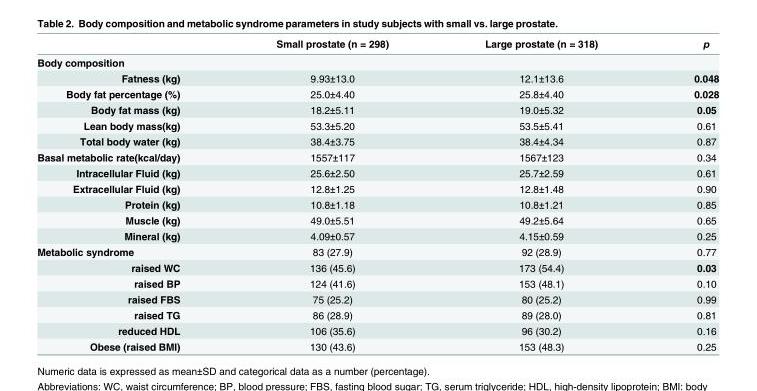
<table><thead><tr><td></td><td>Small prostate (n = 298)</td><td>Large prostate (n = 318)</td><td>p</td></tr></thead><tbody><tr><td colspan="4">Body composition</td></tr><tr><td>Fatness (kg)</td><td>9.93±13.0</td><td>12.1±13.6</td><td>0.048</td></tr><tr><td>Body fat percentage (%)</td><td>25.0±4.40</td><td>25.8±4.40</td><td>0.028</td></tr><tr><td>Body fat mass (kg)</td><td>18.2±5.11</td><td>19.0±5.32</td><td>0.05</td></tr><tr><td>Lean body mass(kg)</td><td>53.3±5.20</td><td>53.5±5.41</td><td>0.61</td></tr><tr><td>Total body water (kg)</td><td>38.4±3.75</td><td>38.4±4.34</td><td>0.87</td></tr><tr><td>Basal metabolic rate(kcal/day)</td><td>1557±117</td><td>1567±123</td><td>0.34</td></tr><tr><td>Intracellular Fluid (kg)</td><td>25.6±2.50</td><td>25.7±2.59</td><td>0.61</td></tr><tr><td>Extracellular Fluid (kg)</td><td>12.8±1.25</td><td>12.8±1.48</td><td>0.90</td></tr><tr><td>Protein (kg)</td><td>10.8±1.18</td><td>10.8±1.21</td><td>0.85</td></tr><tr><td>Muscle (kg)</td><td>49.0±5.51</td><td>49.2±5.64</td><td>0.65</td></tr><tr><td>Mineral (kg)</td><td>4.09±0.57</td><td>4.15±0.59</td><td>0.25</td></tr><tr><td>Metabolic syndrome</td><td>83 (27.9)</td><td>92 (28.9)</td><td>0.77</td></tr><tr><td>raised WC</td><td>136 (45.6)</td><td>173 (54.4)</td><td>0.03</td></tr><tr><td>raised BP</td><td>124 (41.6)</td><td>153 (48.1)</td><td>0.10</td></tr><tr><td>raised FBS</td><td>75 (25.2)</td><td>80 (25.2)</td><td>0.99</td></tr><tr><td>raised TG</td><td>86 (28.9)</td><td>89 (28.0)</td><td>0.81</td></tr><tr><td>reduced HDL</td><td>106 (35.6)</td><td>96 (30.2)</td><td>0.16</td></tr><tr><td>Obese (raised BMI)</td><td>130 (43.6)</td><td>153 (48.3)</td><td>0.25</td></tr></tbody></table>